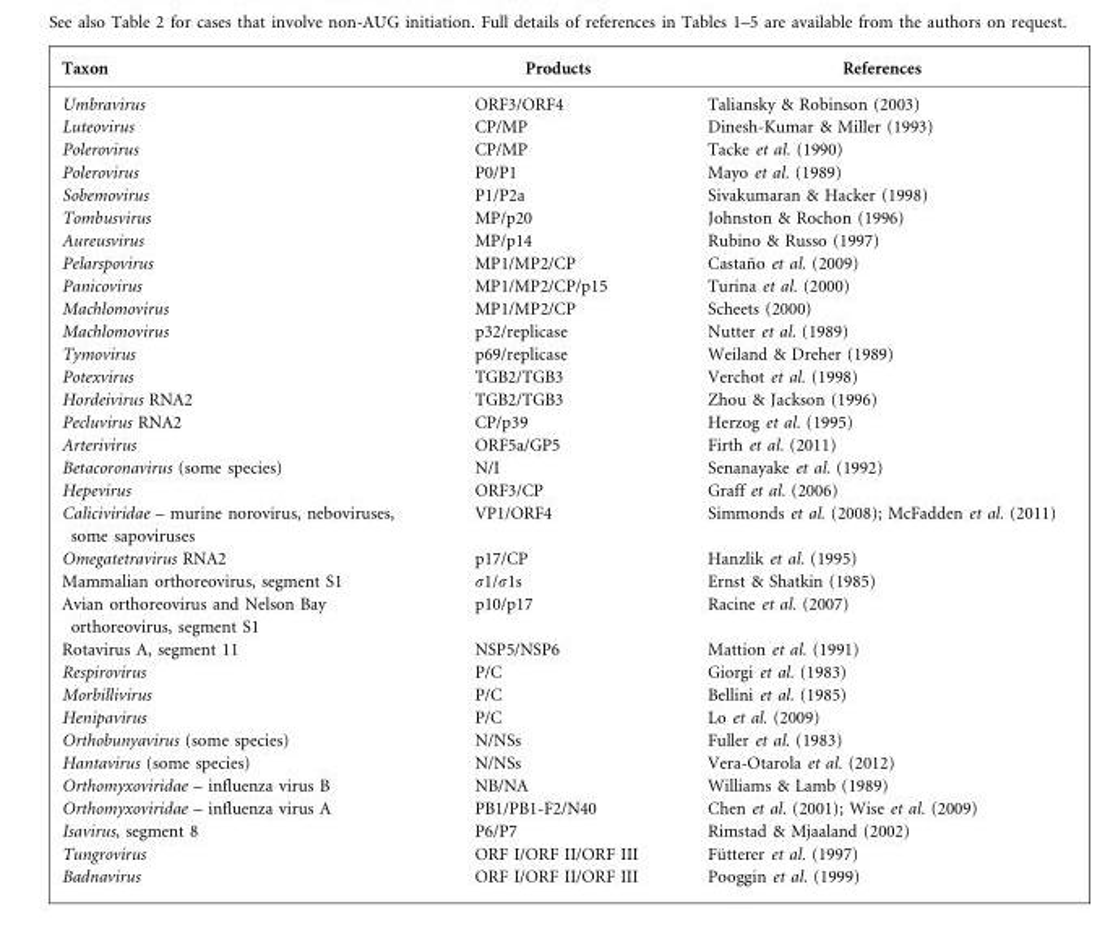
<table><thead><tr><td>Taxon</td><td>Products</td><td>References</td></tr></thead><tbody><tr><td>Umbravirus</td><td>ORF3/ORF4</td><td>Taliansky &amp; Robinson (2003)</td></tr><tr><td>Luteovirus</td><td>CP/MP</td><td>Dinesh-Kumar &amp; Miller (1993)</td></tr><tr><td>Polerovirus</td><td>CP/MP</td><td>Tacke et al. (1990)</td></tr><tr><td>Polerovirus</td><td>P0/P1</td><td>Mayo et al. (1989)</td></tr><tr><td>Sobemovirus</td><td>P1/P2a</td><td>Sivakumaran &amp; Hacker (1998)</td></tr><tr><td>Tombusvirus</td><td>MP/p20</td><td>Johnston &amp; Rochon (1996)</td></tr><tr><td>Aureusvirus</td><td>MP/p14</td><td>Rubino &amp; Russo (1997)</td></tr><tr><td>Pelarspovirus</td><td>MP1/MP2/CP</td><td>Castan˜o et al. (2009)</td></tr><tr><td>Panicovirus</td><td>MP1/MP2/CP/p15</td><td>Turina et al. (2000)</td></tr><tr><td>Machlomovirus</td><td>MP1/MP2/CP</td><td>Scheets (2000)</td></tr><tr><td>Machlomovirus</td><td>p32/replicase</td><td>Nutter et al. (1989)</td></tr><tr><td>Tymovirus</td><td>p69/replicase</td><td>Weiland &amp; Dreher (1989)</td></tr><tr><td>Potexvirus</td><td>TGB2/TGB3</td><td>Verchot et al. (1998)</td></tr><tr><td>Hordeivirus RNA2</td><td>TGB2/TGB3</td><td>Zhou &amp; Jackson (1996)</td></tr><tr><td>Pecluvirus RNA2</td><td>CP/p39</td><td>Herzog et al. (1995)</td></tr><tr><td>Arterivirus</td><td>ORF5a/GP5</td><td>Firth et al. (2011)</td></tr><tr><td>Betacoronavirus (some species)</td><td>N/I</td><td>Senanayake et al. (1992)</td></tr><tr><td>Hepevirus</td><td>ORF3/CP</td><td>Graff et al. (2006)</td></tr><tr><td>Caliciviridae – murine norovirus, neboviruses, some sapoviruses</td><td>VP1/ORF4</td><td>Simmonds et al. (2008); McFadden et al. (2011)</td></tr><tr><td>Omegatetravirus RNA2</td><td>p17/CP</td><td>Hanzlik et al. (1995)</td></tr><tr><td>Mammalian orthoreovirus, segment S1</td><td>σ1/σ1s</td><td>Ernst &amp; Shatkin (1985)</td></tr><tr><td>Avian orthoreovirus and Nelson Bay orthoreovirus, segment S1</td><td>p10/p17</td><td>Racine et al. (2007)</td></tr><tr><td>Rotavirus A, segment 11</td><td>NSP5/NSP6</td><td>Mattion et al. (1991)</td></tr><tr><td>Respirovirus</td><td>P/C</td><td>Giorgi et al. (1983)</td></tr><tr><td>Morbillivirus</td><td>P/C</td><td>Bellini et al. (1985)</td></tr><tr><td>Henipavirus</td><td>P/C</td><td>Lo et al. (2009)</td></tr><tr><td>Orthobunyavirus (some species)</td><td>N/NSs</td><td>Fuller et al. (1983)</td></tr><tr><td>Hantavirus (some species)</td><td>N/NSs</td><td>Vera-Otarola et al. (2012)</td></tr><tr><td>Orthomyxoviridae – influenza virus B</td><td>NB/NA</td><td>Williams &amp; Lamb (1989)</td></tr><tr><td>Orthomyxoviridae – influenza virus A</td><td>PB1/PB1-F2/N40</td><td>Chen et al. (2001); Wise et al. (2009)</td></tr><tr><td>Isavirus, segment 8</td><td>P6/P7</td><td>Rimstad &amp; Mjaaland (2002)</td></tr><tr><td>Tungrovirus</td><td>ORF I/ORF II/ORF III</td><td>Fu¨tterer et al. (1997)</td></tr><tr><td>Badnavirus</td><td>ORF I/ORF II/ORF III</td><td>Pooggin et al. (1999)</td></tr></tbody></table>